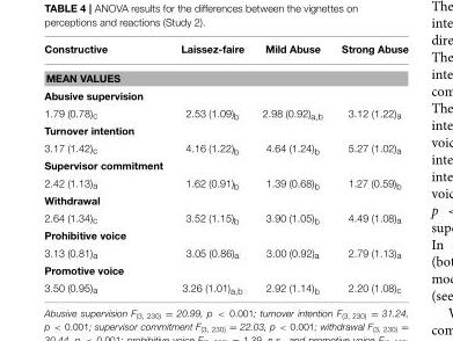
<table><thead><tr><td>Constructive</td><td>Laissez-faire</td><td>Mild Abuse</td><td>Strong Abuse</td></tr></thead><tbody><tr><td colspan="4">MEAN VALUES</td></tr><tr><td colspan="4">Abusive supervision</td></tr><tr><td>1.79 (0.78)<sub>c</sub></td><td>2.53 (1.09)<sub>b</sub></td><td>2.98 (0.92)<sub>a,b</sub></td><td>3.12 (1.22)<sub>a</sub></td></tr><tr><td colspan="4">Turnover intention</td></tr><tr><td>3.17 (1.42)<sub>c</sub></td><td>4.16 (1.22)<sub>b</sub></td><td>4.64 (1.24)<sub>b</sub></td><td>5.27 (1.02)<sub>a</sub></td></tr><tr><td colspan="4">Supervisor commitment</td></tr><tr><td>2.42 (1.13)<sub>a</sub></td><td>1.62 (0.91)<sub>b</sub></td><td>1.39 (0.68)<sub>b</sub></td><td>1.27 (0.59)<sub>b</sub></td></tr><tr><td colspan="4">Withdrawal</td></tr><tr><td>2.64 (1.34)<sub>c</sub></td><td>3.52 (1.15)<sub>b</sub></td><td>3.90 (1.05)<sub>b</sub></td><td>4.49 (1.08)<sub>a</sub></td></tr><tr><td colspan="4">Prohibitive voice</td></tr><tr><td>3.13 (0.81)<sub>a</sub></td><td>3.05 (0.86)<sub>a</sub></td><td>3.00 (0.92)<sub>a</sub></td><td>2.79 (1.13)<sub>a</sub></td></tr><tr><td colspan="4">Promotive voice</td></tr><tr><td>3.50 (0.95)<sub>a</sub></td><td>3.26 (1.01)<sub>a,b</sub></td><td>2.92 (1.14)<sub>b</sub></td><td>2.20 (1.08)<sub>c</sub></td></tr></tbody></table>